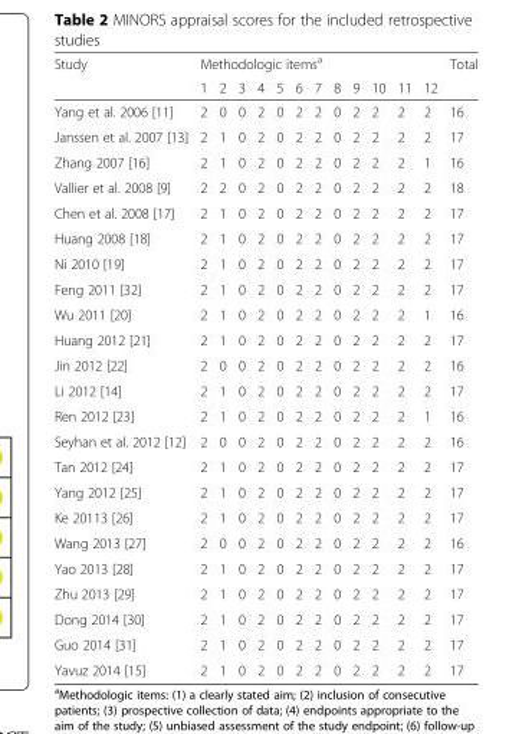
<table><thead><tr><td rowspan="2">Study</td><td colspan="12">Methodologic items<sup>a</sup></td><td rowspan="2">Total</td></tr><tr><td>1</td><td>2</td><td>3</td><td>4</td><td>5</td><td>6</td><td>7</td><td>8</td><td>9</td><td>10</td><td>11</td><td>12</td></tr></thead><tbody><tr><td>Yang et al. 2006 [11]</td><td>2</td><td>0</td><td>0</td><td>2</td><td>0</td><td>2</td><td>2</td><td>0</td><td>2</td><td>2</td><td>2</td><td>2</td><td>16</td></tr><tr><td>Janssen et al. 2007 [13]</td><td>2</td><td>1</td><td>0</td><td>2</td><td>0</td><td>2</td><td>2</td><td>0</td><td>2</td><td>2</td><td>2</td><td>2</td><td>17</td></tr><tr><td>Zhang 2007 [16]</td><td>2</td><td>1</td><td>0</td><td>2</td><td>0</td><td>2</td><td>2</td><td>0</td><td>2</td><td>2</td><td>2</td><td>1</td><td>16</td></tr><tr><td>Vallier et al. 2008 [9]</td><td>2</td><td>2</td><td>0</td><td>2</td><td>0</td><td>2</td><td>2</td><td>0</td><td>2</td><td>2</td><td>2</td><td>2</td><td>18</td></tr><tr><td>Chen et al. 2008 [17]</td><td>2</td><td>1</td><td>0</td><td>2</td><td>0</td><td>2</td><td>2</td><td>0</td><td>2</td><td>2</td><td>2</td><td>2</td><td>17</td></tr><tr><td>Huang 2008 [18]</td><td>2</td><td>1</td><td>0</td><td>2</td><td>0</td><td>2</td><td>2</td><td>0</td><td>2</td><td>2</td><td>2</td><td>2</td><td>17</td></tr><tr><td>Ni 2010 [19]</td><td>2</td><td>1</td><td>0</td><td>2</td><td>0</td><td>2</td><td>2</td><td>0</td><td>2</td><td>2</td><td>2</td><td>2</td><td>17</td></tr><tr><td>Feng 2011 [32]</td><td>2</td><td>1</td><td>0</td><td>2</td><td>0</td><td>2</td><td>2</td><td>0</td><td>2</td><td>2</td><td>2</td><td>2</td><td>17</td></tr><tr><td>Wu 2011 [20]</td><td>2</td><td>1</td><td>0</td><td>2</td><td>0</td><td>2</td><td>2</td><td>0</td><td>2</td><td>2</td><td>2</td><td>1</td><td>16</td></tr><tr><td>Huang 2012 [21]</td><td>2</td><td>1</td><td>0</td><td>2</td><td>0</td><td>2</td><td>2</td><td>0</td><td>2</td><td>2</td><td>2</td><td>2</td><td>17</td></tr><tr><td>Jin 2012 [22]</td><td>2</td><td>0</td><td>0</td><td>2</td><td>0</td><td>2</td><td>2</td><td>0</td><td>2</td><td>2</td><td>2</td><td>2</td><td>16</td></tr><tr><td>Li 2012 [14]</td><td>2</td><td>1</td><td>0</td><td>2</td><td>0</td><td>2</td><td>2</td><td>0</td><td>2</td><td>2</td><td>2</td><td>2</td><td>17</td></tr><tr><td>Ren 2012 [23]</td><td>2</td><td>1</td><td>0</td><td>2</td><td>0</td><td>2</td><td>2</td><td>0</td><td>2</td><td>2</td><td>2</td><td>1</td><td>16</td></tr><tr><td>Seyhan et al. 2012 [12]</td><td>2</td><td>0</td><td>0</td><td>2</td><td>0</td><td>2</td><td>2</td><td>0</td><td>2</td><td>2</td><td>2</td><td>2</td><td>16</td></tr><tr><td>Tan 2012 [24]</td><td>2</td><td>1</td><td>0</td><td>2</td><td>0</td><td>2</td><td>2</td><td>0</td><td>2</td><td>2</td><td>2</td><td>2</td><td>17</td></tr><tr><td>Yang 2012 [25]</td><td>2</td><td>1</td><td>0</td><td>2</td><td>0</td><td>2</td><td>2</td><td>0</td><td>2</td><td>2</td><td>2</td><td>2</td><td>17</td></tr><tr><td>Ke 20113 [26]</td><td>2</td><td>1</td><td>0</td><td>2</td><td>0</td><td>2</td><td>2</td><td>0</td><td>2</td><td>2</td><td>2</td><td>2</td><td>17</td></tr><tr><td>Wang 2013 [27]</td><td>2</td><td>0</td><td>0</td><td>2</td><td>0</td><td>2</td><td>2</td><td>0</td><td>2</td><td>2</td><td>2</td><td>2</td><td>16</td></tr><tr><td>Yao 2013 [28]</td><td>2</td><td>1</td><td>0</td><td>2</td><td>0</td><td>2</td><td>2</td><td>0</td><td>2</td><td>2</td><td>2</td><td>2</td><td>17</td></tr><tr><td>Zhu 2013 [29]</td><td>2</td><td>1</td><td>0</td><td>2</td><td>0</td><td>2</td><td>2</td><td>0</td><td>2</td><td>2</td><td>2</td><td>2</td><td>17</td></tr><tr><td>Dong 2014 [30]</td><td>2</td><td>1</td><td>0</td><td>2</td><td>0</td><td>2</td><td>2</td><td>0</td><td>2</td><td>2</td><td>2</td><td>2</td><td>17</td></tr><tr><td>Guo 2014 [31]</td><td>2</td><td>1</td><td>0</td><td>2</td><td>0</td><td>2</td><td>2</td><td>0</td><td>2</td><td>2</td><td>2</td><td>2</td><td>17</td></tr><tr><td>Yavuz 2014 [15]</td><td>2</td><td>1</td><td>0</td><td>2</td><td>0</td><td>2</td><td>2</td><td>0</td><td>2</td><td>2</td><td>2</td><td>2</td><td>17</td></tr></tbody></table>